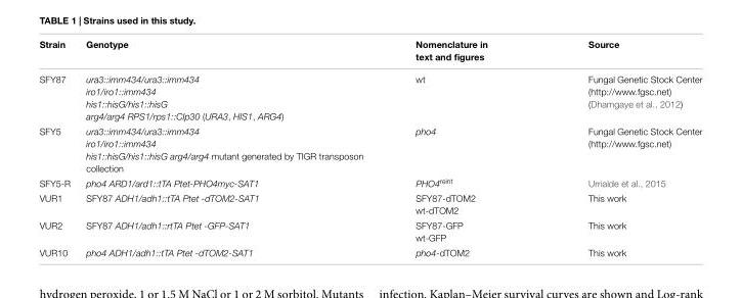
<table><thead><tr><td>Strain</td><td>Genotype</td><td>Nomenclature in text and figures</td><td>Source</td></tr></thead><tbody><tr><td>SFY87</td><td>ura3::imm434/ura3::imm434 iro1/iro1::imm434 his1::hisG/his1::hisG arg4/arg4 RPS1/rps1::CIp30 (URA3, HIS1, ARG4)</td><td>wt</td><td>Fungal Genetic Stock Center (http://www.fgsc.net) (Dhamgaye et al., 2012)</td></tr><tr><td>SFY5</td><td>ura3::imm434/ura3::imm434 iro1/iro1::imm434 his1::hisG/his1::hisG arg4/arg4 mutant generated by TIGR transposon collection</td><td>pho4</td><td>Fungal Genetic Stock Center (http://www.fgsc.net)</td></tr><tr><td>SFY5-R</td><td>pho4 ARD1/ard1::tTA Ptet-PHO4myc-SAT1</td><td>PHO4<sup>reint</sup></td><td>Urrialde et al., 2015</td></tr><tr><td>VUR1</td><td>SFY87 ADH1/adh1::tTA Ptet -dTOM2-SAT1</td><td>SFY87-dTOM2 wt-dTOM2</td><td>This work</td></tr><tr><td>VUR2</td><td>SFY87 ADH1/adh1::rtTA Ptet -GFP-SAT1</td><td>SFY87-GFP wt-GFP</td><td>This work</td></tr><tr><td>VUR10</td><td>pho4 ADH1/adh1::tTA Ptet -dTOM2-SAT1</td><td>pho4-dTOM2</td><td>This work</td></tr></tbody></table>